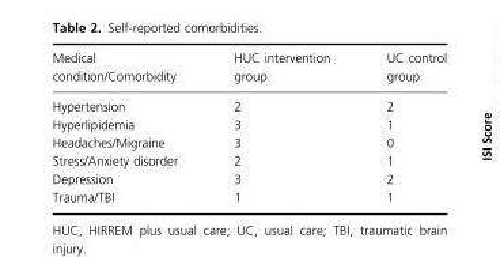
<table><thead><tr><td>Medical condition/Comorbidity</td><td>HUC intervention group</td><td>UC control group</td></tr></thead><tbody><tr><td>Hypertension</td><td>2</td><td>2</td></tr><tr><td>Hyperlipidemia</td><td>3</td><td>1</td></tr><tr><td>Headaches/Migraine</td><td>3</td><td>0</td></tr><tr><td>Stress/Anxiety disorder</td><td>2</td><td>1</td></tr><tr><td>Depression</td><td>3</td><td>2</td></tr><tr><td>Trauma/TBI</td><td>1</td><td>1</td></tr></tbody></table>